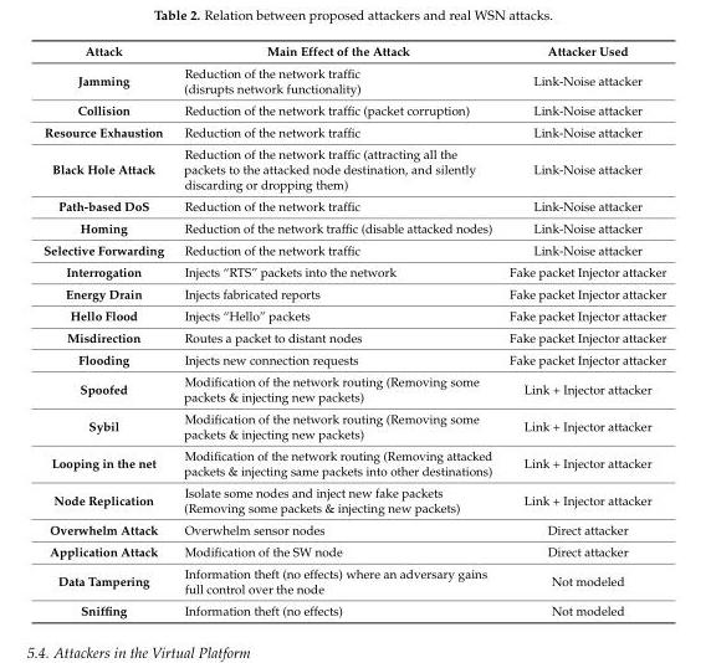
<table><thead><tr><td>Attack</td><td>Main Effect of the Attack</td><td>Attacker Used</td></tr></thead><tbody><tr><td>Jamming</td><td>Reduction of the network traffic (disrupts network functionality)</td><td>Link-Noise attacker</td></tr><tr><td>Collision</td><td>Reduction of the network traffic (packet corruption)</td><td>Link-Noise attacker</td></tr><tr><td>Resource Exhaustion</td><td>Reduction of the network traffic</td><td>Link-Noise attacker</td></tr><tr><td>Black Hole Attack</td><td>Reduction of the network traffic (attracting all the packets to the attacked node destination, and silently discarding or dropping them)</td><td>Link-Noise attacker</td></tr><tr><td>Path-based DoS</td><td>Reduction of the network traffic</td><td>Link-Noise attacker</td></tr><tr><td>Homing</td><td>Reduction of the network traffic (disable attacked nodes)</td><td>Link-Noise attacker</td></tr><tr><td>Selective Forwarding</td><td>Reduction of the network traffic</td><td>Link-Noise attacker</td></tr><tr><td>Interrogation</td><td>Injects “RTS” packets into the network</td><td>Fake packet Injector attacker</td></tr><tr><td>Energy Drain</td><td>Injects fabricated reports</td><td>Fake packet Injector attacker</td></tr><tr><td>Hello Flood</td><td>Injects “Hello” packets</td><td>Fake packet Injector attacker</td></tr><tr><td>Misdirection</td><td>Routes a packet to distant nodes</td><td>Fake packet Injector attacker</td></tr><tr><td>Flooding</td><td>Injects new connection requests</td><td>Fake packet Injector attacker</td></tr><tr><td>Spoofed</td><td>Modification of the network routing (Removing some packets &amp; injecting new packets)</td><td>Link + Injector attacker</td></tr><tr><td>Sybil</td><td>Modification of the network routing (Removing some packets &amp; injecting new packets)</td><td>Link + Injector attacker</td></tr><tr><td>Looping in the net</td><td>Modification of the network routing (Removing attacked packets &amp; injecting same packets into other destinations)</td><td>Link + Injector attacker</td></tr><tr><td>Node Replication</td><td>Isolate some nodes and inject new fake packets (Removing some packets &amp; injecting new packets)</td><td>Link + Injector attacker</td></tr><tr><td>Overwhelm Attack</td><td>Overwhelm sensor nodes</td><td>Direct attacker</td></tr><tr><td>Application Attack</td><td>Modification of the SW node</td><td>Direct attacker</td></tr><tr><td>Data Tampering</td><td>Information theft (no effects) where an adversary gains full control over the node</td><td>Not modeled</td></tr><tr><td>Sniffing</td><td>Information theft (no effects)</td><td>Not modeled</td></tr></tbody></table>